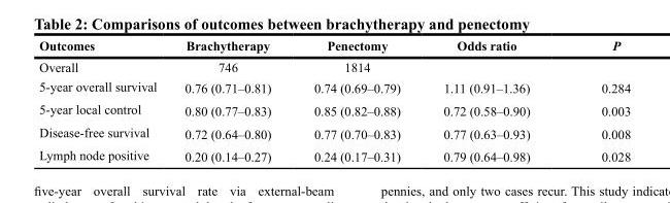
<table><thead><tr><td>Outcomes</td><td>Brachytherapy</td><td>Penectomy</td><td>Odds ratio</td><td>P</td></tr></thead><tbody><tr><td>Overall</td><td>746</td><td>1814</td><td></td><td></td></tr><tr><td>5-year overall survival</td><td>0.76 (0.71–0.81)</td><td>0.74 (0.69–0.79)</td><td>1.11 (0.91–1.36)</td><td>0.284</td></tr><tr><td>5-year local control</td><td>0.80 (0.77–0.83)</td><td>0.85 (0.82–0.88)</td><td>0.72 (0.58–0.90)</td><td>0.003</td></tr><tr><td>Disease-free survival</td><td>0.72 (0.64–0.80)</td><td>0.77 (0.70–0.83)</td><td>0.77 (0.63–0.93)</td><td>0.008</td></tr><tr><td>Lymph node positive</td><td>0.20 (0.14–0.27)</td><td>0.24 (0.17–0.31)</td><td>0.79 (0.64–0.98)</td><td>0.028</td></tr></tbody></table>